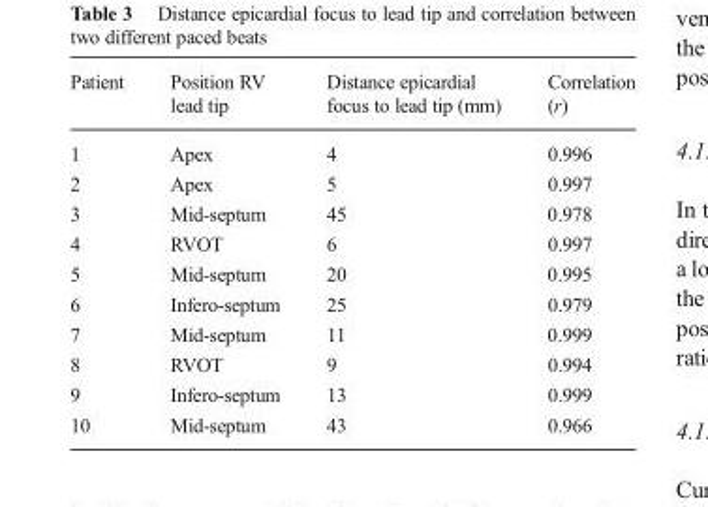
<table><thead><tr><td>Patient</td><td>Position RV lead tip</td><td>Distance epicardial focus to lead tip (mm)</td><td>Correlation (r)</td></tr></thead><tbody><tr><td>1</td><td>Apex</td><td>4</td><td>0.996</td></tr><tr><td>2</td><td>Apex</td><td>5</td><td>0.997</td></tr><tr><td>3</td><td>Mid-septum</td><td>45</td><td>0.978</td></tr><tr><td>4</td><td>RVOT</td><td>6</td><td>0.997</td></tr><tr><td>5</td><td>Mid-septum</td><td>20</td><td>0.995</td></tr><tr><td>6</td><td>Infero-septum</td><td>25</td><td>0.979</td></tr><tr><td>7</td><td>Mid-septum</td><td>11</td><td>0.999</td></tr><tr><td>8</td><td>RVOT</td><td>9</td><td>0.994</td></tr><tr><td>9</td><td>Infero-septum</td><td>13</td><td>0.999</td></tr><tr><td>10</td><td>Mid-septum</td><td>43</td><td>0.966</td></tr></tbody></table>